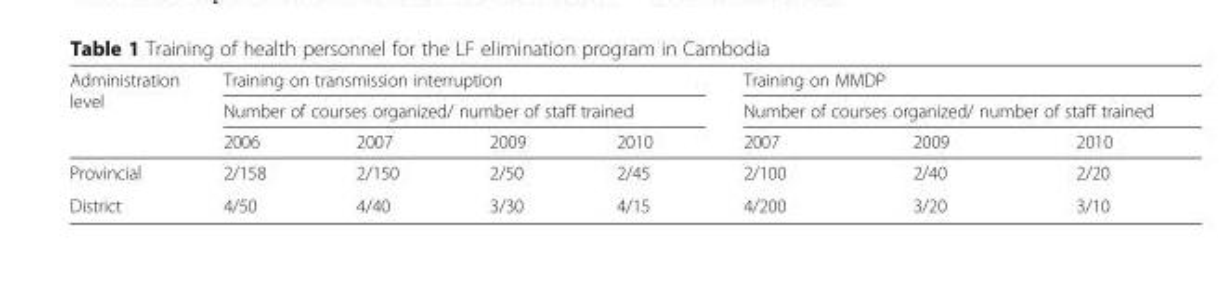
<table><thead><tr><td rowspan="3">Administration level</td><td rowspan="2" colspan="4">Training on transmission interruption Number of courses organized/ number of staff trained</td><td rowspan="2" colspan="3">Training on MMDP Number of courses organized/ number of staff trained</td></tr><tr></tr><tr><td>2006</td><td>2007</td><td>2009</td><td>2010</td><td>2007</td><td>2009</td><td>2010</td></tr></thead><tbody><tr><td>Provincial</td><td>2/158</td><td>2/150</td><td>2/50</td><td>2/45</td><td>2/100</td><td>2/40</td><td>2/20</td></tr><tr><td>District</td><td>4/50</td><td>4/40</td><td>3/30</td><td>4/15</td><td>4/200</td><td>3/20</td><td>3/10</td></tr></tbody></table>